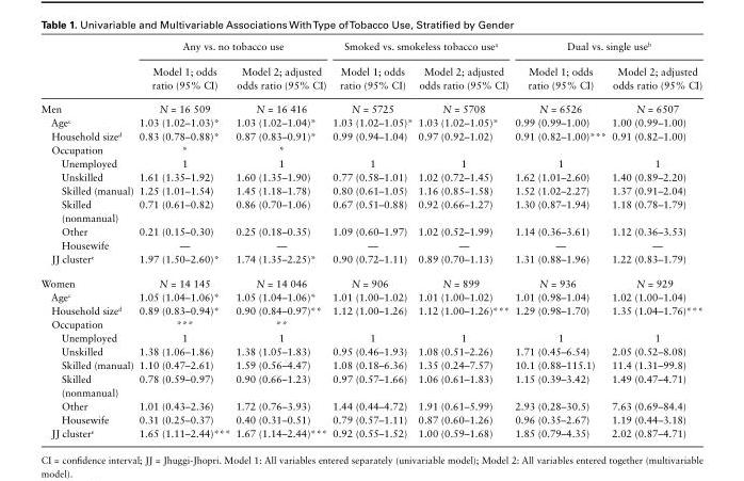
<table><thead><tr><td rowspan="2"></td><td colspan="2">Any vs. no tobacco use</td><td colspan="2">Smoked vs. smokeless tobacco use<sup>a</sup></td><td colspan="2">Dual vs. single use<sup>b</sup></td></tr><tr><td>Model 1; odds ratio (95% CI)</td><td>Model 2; adjusted odds ratio (95% CI)</td><td>Model 1; odds ratio (95% CI)</td><td>Model 2; adjusted odds ratio (95% CI)</td><td>Model 1; odds ratio (95% CI)</td><td>Model 2; adjusted odds ratio (95% CI)</td></tr></thead><tbody><tr><td>Men</td><td>N = 16 509</td><td>N = 16 416</td><td>N = 5725</td><td>N = 5708</td><td>N = 6526</td><td>N = 6507</td></tr><tr><td>Age<sup>c</sup></td><td>1.03 (1.02–1.03)*</td><td>1.03 (1.02–1.04)*</td><td>1.03 (1.02–1.05)*</td><td>1.03 (1.02–1.05)*</td><td>0.99 (0.99–1.00)</td><td>1.00 (0.99–1.00)</td></tr><tr><td>Household size<sup>d</sup></td><td>0.83 (0.78–0.88)*</td><td>0.87 (0.83–0.91)*</td><td>0.99 (0.94–1.04)</td><td>0.97 (0.92–1.02)</td><td>0.91 (0.82–1.00)***</td><td>0.91 (0.82–1.00)</td></tr><tr><td>Occupation</td><td>*</td><td>*</td><td></td><td></td><td></td><td></td></tr><tr><td>Unemployed</td><td>1</td><td>1</td><td>1</td><td>1</td><td>1</td><td>1</td></tr><tr><td>Unskilled</td><td>1.61 (1.35–1.92)</td><td>1.60 (1.35–1.90)</td><td>0.77 (0.58–1.01)</td><td>1.02 (0.72–1.45)</td><td>1.62 (1.01–2.60)</td><td>1.40 (0.89–2.20)</td></tr><tr><td>Skilled (manual)</td><td>1.25 (1.01–1.54)</td><td>1.45 (1.18–1.78)</td><td>0.80 (0.61–1.05)</td><td>1.16 (0.85–1.58)</td><td>1.52 (1.02–2.27)</td><td>1.37 (0.91–2.04)</td></tr><tr><td>Skilled (nonmanual)</td><td>0.71 (0.61–0.82)</td><td>0.86 (0.70–1.06)</td><td>0.67 (0.51–0.88)</td><td>0.92 (0.66–1.27)</td><td>1.30 (0.87–1.94)</td><td>1.18 (0.78–1.79)</td></tr><tr><td>Other</td><td>0.21 (0.15–0.30)</td><td>0.25 (0.18–0.35)</td><td>1.09 (0.60–1.97)</td><td>1.02 (0.52–1.99)</td><td>1.14 (0.36–3.61)</td><td>1.12 (0.36–3.53)</td></tr><tr><td>Housewife</td><td>—</td><td>—</td><td>—</td><td>—</td><td>—</td><td>—</td></tr><tr><td>JJ cluster<sup>e</sup></td><td>1.97 (1.50–2.60)*</td><td>1.74 (1.35–2.25)*</td><td>0.90 (0.72–1.11)</td><td>0.89 (0.70–1.13)</td><td>1.31 (0.88–1.96)</td><td>1.22 (0.83–1.79)</td></tr><tr><td>Women</td><td>N = 14 145</td><td>N = 14 046</td><td>N = 906</td><td>N = 899</td><td>N = 936</td><td>N = 929</td></tr><tr><td>Age<sup>c</sup></td><td>1.05 (1.04–1.06)*</td><td>1.05 (1.04–1.06)*</td><td>1.01 (1.00–1.02)</td><td>1.01 (1.00–1.02)</td><td>1.01 (0.98–1.04)</td><td>1.02 (1.00–1.04)</td></tr><tr><td>Household size<sup>d</sup></td><td>0.89 (0.83–0.94)*</td><td>0.90 (0.84–0.97)**</td><td>1.12 (1.00–1.26)</td><td>1.12 (1.00–1.26)***</td><td>1.29 (0.98–1.70)</td><td>1.35 (1.04–1.76)***</td></tr><tr><td>Occupation</td><td>***</td><td>**</td><td></td><td></td><td></td><td></td></tr><tr><td>Unemployed</td><td>1</td><td>1</td><td>1</td><td>1</td><td>1</td><td>1</td></tr><tr><td>Unskilled</td><td>1.38 (1.06–1.86)</td><td>1.38 (1.05–1.83)</td><td>0.95 (0.46–1.93)</td><td>1.08 (0.51–2.26)</td><td>1.71 (0.45–6.54)</td><td>2.05 (0.52–8.08)</td></tr><tr><td>Skilled (manual)</td><td>1.10 (0.47–2.61)</td><td>1.59 (0.56–4.47)</td><td>1.08 (0.18–6.36)</td><td>1.35 (0.24–7.57)</td><td>10.1 (0.88–115.1)</td><td>11.4 (1.31–99.8)</td></tr><tr><td>Skilled (nonmanual)</td><td>0.78 (0.59–0.97)</td><td>0.90 (0.66–1.23)</td><td>0.97 (0.57–1.66)</td><td>1.06 (0.61–1.83)</td><td>1.15 (0.39–3.42)</td><td>1.49 (0.47–4.71)</td></tr><tr><td>Other</td><td>1.01 (0.43–2.36)</td><td>1.72 (0.76–3.93)</td><td>1.44 (0.44–4.72)</td><td>1.91 (0.61–5.99)</td><td>2.93 (0.28–30.5)</td><td>7.63 (0.69–84.4)</td></tr><tr><td>Housewife</td><td>0.31 (0.25–0.37)</td><td>0.40 (0.31–0.51)</td><td>0.79 (0.57–1.11)</td><td>0.87 (0.60–1.26)</td><td>0.96 (0.35–2.67)</td><td>1.19 (0.44–3.18)</td></tr><tr><td>JJ cluster<sup>e</sup></td><td>1.65 (1.11–2.44)***</td><td>1.67 (1.14–2.44)***</td><td>0.92 (0.55–1.52)</td><td>1.00 (0.59–1.68)</td><td>1.85 (0.79–4.35)</td><td>2.02 (0.87–4.71)</td></tr></tbody></table>